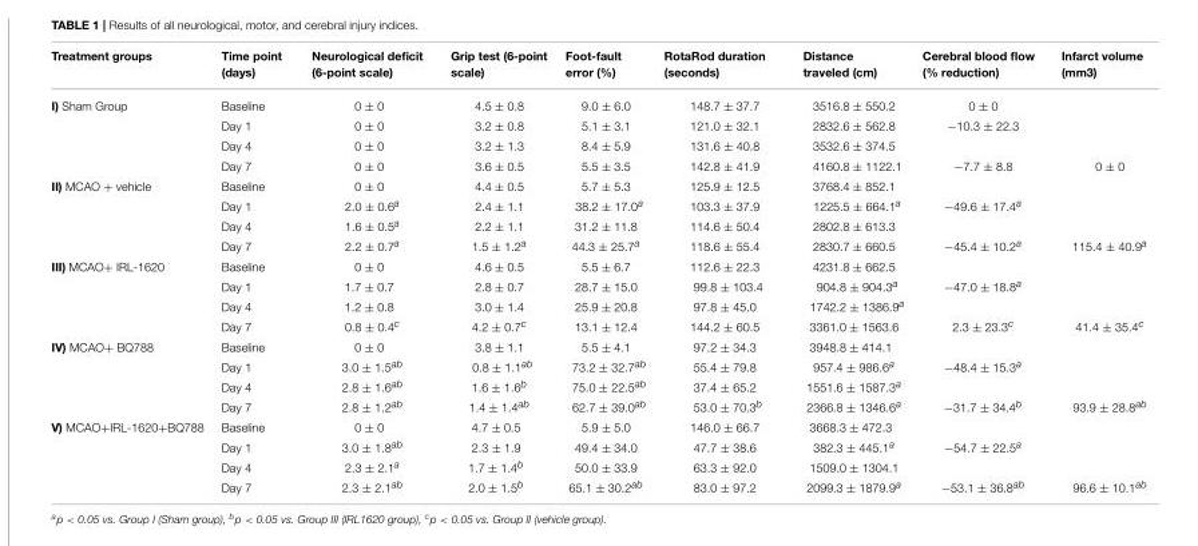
<table><thead><tr><td>Treatment groups</td><td>Time point (days)</td><td>Neurological deficit (6-point scale)</td><td>Grip test (6-point scale)</td><td>Foot-fault error (%)</td><td>RotaRod duration (seconds)</td><td>Distance traveled (cm)</td><td>Cerebral blood flow (% reduction)</td><td>Infarct volume (mm3)</td></tr></thead><tbody><tr><td rowspan="4">I) Sham Group</td><td>Baseline</td><td>0 ± 0</td><td>4.5 ± 0.8</td><td>9.0 ± 6.0</td><td>148.7 ± 37.7</td><td>3516.8 ± 550.2</td><td>0 ± 0</td><td></td></tr><tr><td>Day 1</td><td>0 ± 0</td><td>3.2 ± 0.8</td><td>5.1 ± 3.1</td><td>121.0 ± 32.1</td><td>2832.6 ± 562.8</td><td>−10.3 ± 22.3</td><td></td></tr><tr><td>Day 4</td><td>0 ± 0</td><td>3.2 ± 1.3</td><td>8.4 ± 5.9</td><td>131.6 ± 40.8</td><td>3532.6 ± 374.5</td><td></td><td></td></tr><tr><td>Day 7</td><td>0 ± 0</td><td>3.6 ± 0.5</td><td>5.5 ± 3.5</td><td>142.8 ± 41.9</td><td>4160.8 ± 1122.1</td><td>−7.7 ± 8.8</td><td>0 ± 0</td></tr><tr><td rowspan="4">II) MCAO + vehicle</td><td>Baseline</td><td>0 ± 0</td><td>4.4 ± 0.5</td><td>5.7 ± 5.3</td><td>125.9 ± 12.5</td><td>3768.4 ± 852.1</td><td></td><td></td></tr><tr><td>Day 1</td><td>2.0 ± 0.6a</td><td>2.4 ± 1.1</td><td>38.2 ± 17.0a</td><td>103.3 ± 37.9</td><td>1225.5 ± 664.1a</td><td>−49.6 ± 17.4a</td><td></td></tr><tr><td>Day 4</td><td>1.6 ± 0.5a</td><td>2.2 ± 1.1</td><td>31.2 ± 11.8</td><td>114.6 ± 50.4</td><td>2802.8 ± 613.3</td><td></td><td></td></tr><tr><td>Day 7</td><td>2.2 ± 0.7a</td><td>1.5 ± 1.2a</td><td>44.3 ± 25.7a</td><td>118.6 ± 55.4</td><td>2830.7 ± 660.5</td><td>−45.4 ± 10.2a</td><td>115.4 ± 40.9a</td></tr><tr><td rowspan="4">III) MCAO+ IRL-1620</td><td>Baseline</td><td>0 ± 0</td><td>4.6 ± 0.5</td><td>5.5 ± 6.7</td><td>112.6 ± 22.3</td><td>4231.8 ± 662.5</td><td></td><td></td></tr><tr><td>Day 1</td><td>1.7 ± 0.7</td><td>2.8 ± 0.7</td><td>28.7 ± 15.0</td><td>99.8 ± 103.4</td><td>904.8 ± 904.3a</td><td>−47.0 ± 18.8a</td><td></td></tr><tr><td>Day 4</td><td>1.2 ± 0.8</td><td>3.0 ± 1.4</td><td>25.9 ± 20.8</td><td>97.8 ± 45.0</td><td>1742.2 ± 1386.9a</td><td></td><td></td></tr><tr><td>Day 7</td><td>0.8 ± 0.4c</td><td>4.2 ± 0.7c</td><td>13.1 ± 12.4</td><td>144.2 ± 60.5</td><td>3361.0 ± 1563.6</td><td>2.3 ± 23.3c</td><td>41.4 ± 35.4c</td></tr><tr><td rowspan="4">IV) MCAO+ BQ788</td><td>Baseline</td><td>0 ± 0</td><td>3.8 ± 1.1</td><td>5.5 ± 4.1</td><td>97.2 ± 34.3</td><td>3948.8 ± 414.1</td><td></td><td></td></tr><tr><td>Day 1</td><td>3.0 ± 1.5ab</td><td>0.8 ± 1.1ab</td><td>73.2 ± 32.7ab</td><td>55.4 ± 79.8</td><td>957.4 ± 986.6a</td><td>−48.4 ± 15.3a</td><td></td></tr><tr><td>Day 4</td><td>2.8 ± 1.6ab</td><td>1.6 ± 1.6b</td><td>75.0 ± 22.5ab</td><td>37.4 ± 65.2</td><td>1551.6 ± 1587.3a</td><td></td><td></td></tr><tr><td>Day 7</td><td>2.8 ± 1.2ab</td><td>1.4 ± 1.4ab</td><td>62.7 ± 39.0ab</td><td>53.0 ± 70.3b</td><td>2366.8 ± 1346.6a</td><td>−31.7 ± 34.4b</td><td>93.9 ± 28.8ab</td></tr><tr><td rowspan="4">V) MCAO+IRL-1620+BQ788</td><td>Baseline</td><td>0 ± 0</td><td>4.7 ± 0.5</td><td>5.9 ± 5.0</td><td>146.0 ± 66.7</td><td>3668.3 ± 472.3</td><td></td><td></td></tr><tr><td>Day 1</td><td>3.0 ± 1.8ab</td><td>2.3 ± 1.9</td><td>49.4 ± 34.0</td><td>47.7 ± 38.6</td><td>382.3 ± 445.1a</td><td>−54.7 ± 22.5a</td><td></td></tr><tr><td>Day 4</td><td>2.3 ± 2.1a</td><td>1.7 ± 1.4b</td><td>50.0 ± 33.9</td><td>63.3 ± 92.0</td><td>1509.0 ± 1304.1</td><td></td><td></td></tr><tr><td>Day 7</td><td>2.3 ± 2.1ab</td><td>2.0 ± 1.5b</td><td>65.1 ± 30.2ab</td><td>83.0 ± 97.2</td><td>2099.3 ± 1879.9a</td><td>−53.1 ± 36.8ab</td><td>96.6 ± 10.1ab</td></tr></tbody></table>